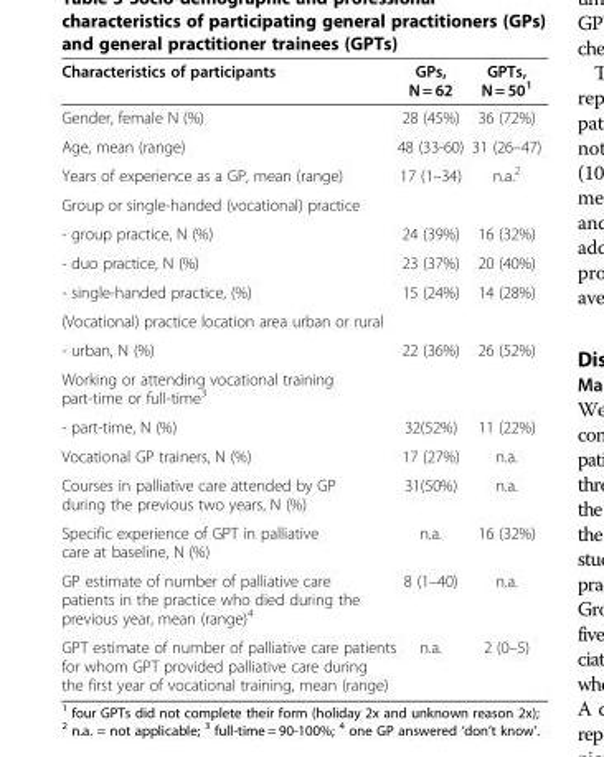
<table><thead><tr><td>Characteristics of participants</td><td>GPs, N = 62</td><td>GPTs, N = 50<sup>1</sup></td></tr></thead><tbody><tr><td>Gender, female N (%)</td><td>28 (45%)</td><td>36 (72%)</td></tr><tr><td>Age, mean (range)</td><td>48 (33-60)</td><td>31 (26–47)</td></tr><tr><td>Years of experience as a GP, mean (range)</td><td>17 (1–34)</td><td>n.a.<sup>2</sup></td></tr><tr><td colspan="3">Group or single-handed (vocational) practice</td></tr><tr><td>- group practice, N (%)</td><td>24 (39%)</td><td>16 (32%)</td></tr><tr><td>- duo practice, N (%)</td><td>23 (37%)</td><td>20 (40%)</td></tr><tr><td>- single-handed practice, (%)</td><td>15 (24%)</td><td>14 (28%)</td></tr><tr><td colspan="3">(Vocational) practice location area urban or rural</td></tr><tr><td>- urban, N (%)</td><td>22 (36%)</td><td>26 (52%)</td></tr><tr><td colspan="3">Working or attending vocational training part-time or full-time<sup>3</sup></td></tr><tr><td>- part-time, N (%)</td><td>32(52%)</td><td>11 (22%)</td></tr><tr><td>Vocational GP trainers, N (%)</td><td>17 (27%)</td><td>n.a.</td></tr><tr><td>Courses in palliative care attended by GP during the previous two years, N (%)</td><td>31(50%)</td><td>n.a.</td></tr><tr><td>Specific experience of GPT in palliative care at baseline, N (%)</td><td>n.a.</td><td>16 (32%)</td></tr><tr><td>GP estimate of number of palliative care patients in the practice who died during the previous year, mean (range)<sup>4</sup></td><td>8 (1–40)</td><td>n.a.</td></tr><tr><td>GPT estimate of number of palliative care patients for whom GPT provided palliative care during the first year of vocational training, mean (range)</td><td>n.a.</td><td>2 (0–5)</td></tr></tbody></table>